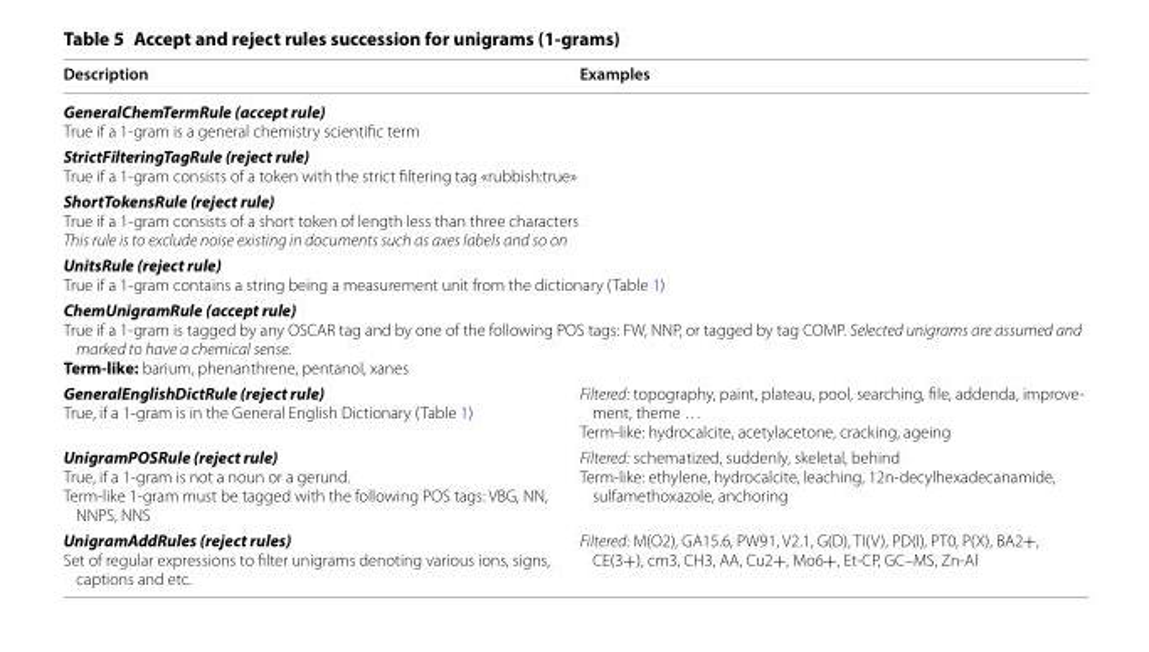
<table><thead><tr><td>Description</td><td>Examples</td></tr></thead><tbody><tr><td colspan="2">GeneralChemTermRule (accept rule) True if a 1-gram is a general chemistry scientific term</td></tr><tr><td colspan="2">StrictFilteringTagRule (reject rule) True if a 1-gram consists of a token with the strict filtering tag «rubbish:true»</td></tr><tr><td colspan="2">ShortTokensRule (reject rule) True if a 1-gram consists of a short token of length less than three characters This rule is to exclude noise existing in documents such as axes labels and so on</td></tr><tr><td colspan="2">UnitsRule (reject rule) True if a 1-gram contains a string being a measurement unit from the dictionary (Table 1)</td></tr><tr><td colspan="2">ChemUnigramRule (accept rule) True if a 1-gram is tagged by any OSCAR tag and by one of the following POS tags: FW, NNP, or tagged by tag COMP. Selected unigrams are assumed and marked to have a chemical sense. Term-like: barium, phenanthrene, pentanol, xanes</td></tr><tr><td>GeneralEnglishDictRule (reject rule) True, if a 1-gram is in the General English Dictionary (Table 1)</td><td>Filtered: topography, paint, plateau, pool, searching, file, addenda, improve- ment, theme … Term-like: hydrocalcite, acetylacetone, cracking, ageing</td></tr><tr><td>UnigramPOSRule (reject rule) True, if a 1-gram is not a noun or a gerund. Term-like 1-gram must be tagged with the following POS tags: VBG, NN, NNPS, NNS</td><td>Filtered: schematized, suddenly, skeletal, behind Term-like: ethylene, hydrocalcite, leaching, 12n-decylhexadecanamide, sulfamethoxazole, anchoring</td></tr><tr><td>UnigramAddRules (reject rules) Set of regular expressions to filter unigrams denoting various ions, signs, captions and etc.</td><td>Filtered: M(O2), GA15.6, PW91, V2.1, G(D), TI(V), PD(I), PT0, P(X), BA2+, CE(3+), cm3, CH3, AA, Cu2+, Mo6+, Et-CP, GC–MS, Zn-Al</td></tr></tbody></table>